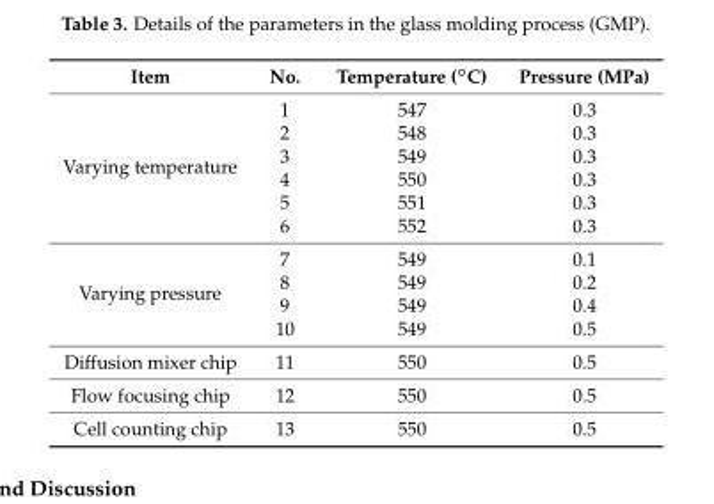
<table><thead><tr><td>Item</td><td>No.</td><td>Temperature (◦C)</td><td>Pressure (MPa)</td></tr></thead><tbody><tr><td rowspan="6">Varying temperature</td><td>1</td><td>547</td><td>0.3</td></tr><tr><td>2</td><td>548</td><td>0.3</td></tr><tr><td>3</td><td>549</td><td>0.3</td></tr><tr><td>4</td><td>550</td><td>0.3</td></tr><tr><td>5</td><td>551</td><td>0.3</td></tr><tr><td>6</td><td>552</td><td>0.3</td></tr><tr><td rowspan="4">Varying pressure</td><td>7</td><td>549</td><td>0.1</td></tr><tr><td>8</td><td>549</td><td>0.2</td></tr><tr><td>9</td><td>549</td><td>0.4</td></tr><tr><td>10</td><td>549</td><td>0.5</td></tr><tr><td>Diffusion mixer chip</td><td>11</td><td>550</td><td>0.5</td></tr><tr><td>Flow focusing chip</td><td>12</td><td>550</td><td>0.5</td></tr><tr><td>Cell counting chip</td><td>13</td><td>550</td><td>0.5</td></tr></tbody></table>